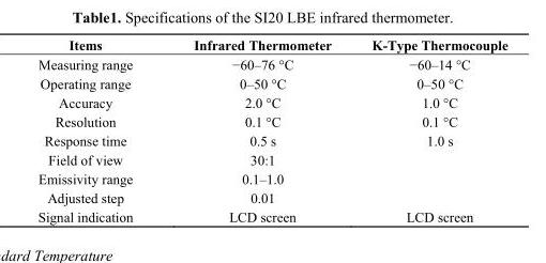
<table><thead><tr><td>Items</td><td>Infrared Thermometer</td><td>K-Type Thermocouple</td></tr></thead><tbody><tr><td>Measuring range</td><td>−60–76 °C</td><td>−60–14 °C</td></tr><tr><td>Operating range</td><td>0–50 °C</td><td>0–50 °C</td></tr><tr><td>Accuracy</td><td>2.0 °C</td><td>1.0 °C</td></tr><tr><td>Resolution</td><td>0.1 °C</td><td>0.1 °C</td></tr><tr><td>Response time</td><td>0.5 s</td><td>1.0 s</td></tr><tr><td>Field of view</td><td>30:1</td><td></td></tr><tr><td>Emissivity range</td><td>0.1–1.0</td><td></td></tr><tr><td>Adjusted step</td><td>0.01</td><td></td></tr><tr><td>Signal indication</td><td>LCD screen</td><td>LCD screen</td></tr></tbody></table>